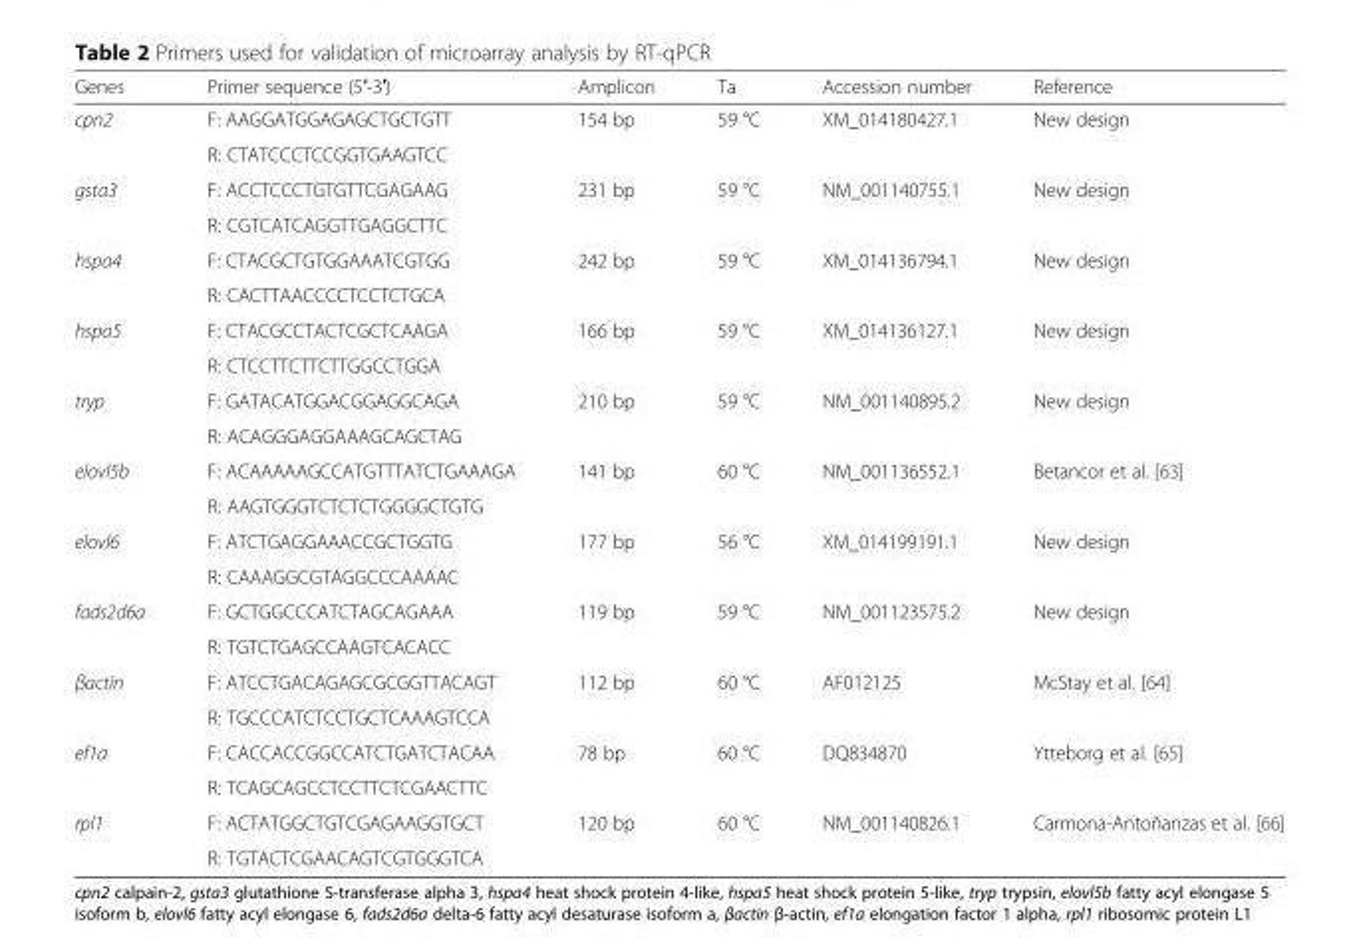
<table><thead><tr><td>Genes</td><td>Primer sequence (5′-3′)</td><td>Amplicon</td><td>Ta</td><td>Accession number</td><td>Reference</td></tr></thead><tbody><tr><td rowspan="2">cpn2</td><td>F: AAGGATGGAGAGCTGCTGTT</td><td rowspan="2">154 bp</td><td rowspan="2">59 °C</td><td rowspan="2">XM_014180427.1</td><td rowspan="2">New design</td></tr><tr><td>R: CTATCCCTCCGGTGAAGTCC</td></tr><tr><td rowspan="2">gsta3</td><td>F: ACCTCCCTGTGTTCGAGAAG</td><td rowspan="2">231 bp</td><td rowspan="2">59 °C</td><td rowspan="2">NM_001140755.1</td><td rowspan="2">New design</td></tr><tr><td>R: CGTCATCAGGTTGAGGCTTC</td></tr><tr><td rowspan="2">hspa4</td><td>F: CTACGCTGTGGAAATCGTGG</td><td rowspan="2">242 bp</td><td rowspan="2">59 °C</td><td rowspan="2">XM_014136794.1</td><td rowspan="2">New design</td></tr><tr><td>R: CACTTAACCCCTCCTCTGCA</td></tr><tr><td rowspan="2">hspa5</td><td>F: CTACGCCTACTCGCTCAAGA</td><td rowspan="2">166 bp</td><td rowspan="2">59 °C</td><td rowspan="2">XM_014136127.1</td><td rowspan="2">New design</td></tr><tr><td>R: CTCCTTCTTCTTGGCCTGGA</td></tr><tr><td rowspan="2">tryp</td><td>F: GATACATGGACGGAGGCAGA</td><td rowspan="2">210 bp</td><td rowspan="2">59 °C</td><td rowspan="2">NM_001140895.2</td><td rowspan="2">New design</td></tr><tr><td>R: ACAGGGAGGAAAGCAGCTAG</td></tr><tr><td rowspan="2">elovl5b</td><td>F: ACAAAAAGCCATGTTTATCTGAAAGA</td><td rowspan="2">141 bp</td><td rowspan="2">60 °C</td><td rowspan="2">NM_001136552.1</td><td rowspan="2">Betancor et al. [63]</td></tr><tr><td>R: AAGTGGGTCTCTCTGGGGCTGTG</td></tr><tr><td rowspan="2">elovl6</td><td>F: ATCTGAGGAAACCGCTGGTG</td><td rowspan="2">177 bp</td><td rowspan="2">56 °C</td><td rowspan="2">XM_014199191.1</td><td rowspan="2">New design</td></tr><tr><td>R: CAAAGGCGTAGGCCCAAAAC</td></tr><tr><td rowspan="2">fads2d6a</td><td>F: GCTGGCCCATCTAGCAGAAA</td><td rowspan="2">119 bp</td><td rowspan="2">59 °C</td><td rowspan="2">NM_001123575.2</td><td rowspan="2">New design</td></tr><tr><td>R: TGTCTGAGCCAAGTCACACC</td></tr><tr><td rowspan="2">βactin</td><td>F: ATCCTGACAGAGCGCGGTTACAGT</td><td rowspan="2">112 bp</td><td rowspan="2">60 °C</td><td rowspan="2">AF012125</td><td rowspan="2">McStay et al. [64]</td></tr><tr><td>R: TGCCCATCTCCTGCTCAAAGTCCA</td></tr><tr><td rowspan="2">ef1a</td><td>F: CACCACCGGCCATCTGATCTACAA</td><td rowspan="2">78 bp</td><td rowspan="2">60 °C</td><td rowspan="2">DQ834870</td><td rowspan="2">Ytteborg et al. [65]</td></tr><tr><td>R: TCAGCAGCCTCCTTCTCGAACTTC</td></tr><tr><td rowspan="2">rpl1</td><td>F: ACTATGGCTGTCGAGAAGGTGCT</td><td rowspan="2">120 bp</td><td rowspan="2">60 °C</td><td rowspan="2">NM_001140826.1</td><td rowspan="2">Carmona-Antoñanzas et al. [66]</td></tr><tr><td>R: TGTACTCGAACAGTCGTGGGTCA</td></tr></tbody></table>